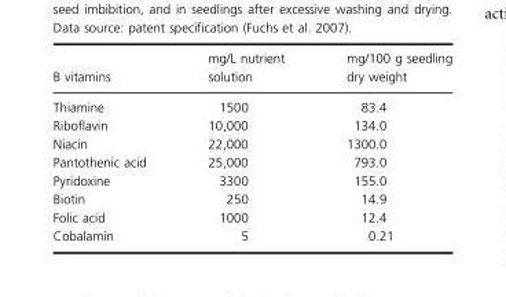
<table><thead><tr><td>B vitamins</td><td>mg/L nutrient solution</td><td>mg/100 g seedling dry weight</td></tr></thead><tbody><tr><td>Thiamine</td><td>1500</td><td>83.4</td></tr><tr><td>Riboflavin</td><td>10,000</td><td>134.0</td></tr><tr><td>Niacin</td><td>22,000</td><td>1300.0</td></tr><tr><td>Pantothenic acid</td><td>25,000</td><td>793.0</td></tr><tr><td>Pyridoxine</td><td>3300</td><td>155.0</td></tr><tr><td>Biotin</td><td>250</td><td>14.9</td></tr><tr><td>Folic acid</td><td>1000</td><td>12.4</td></tr><tr><td>Cobalamin</td><td>5</td><td>0.21</td></tr></tbody></table>